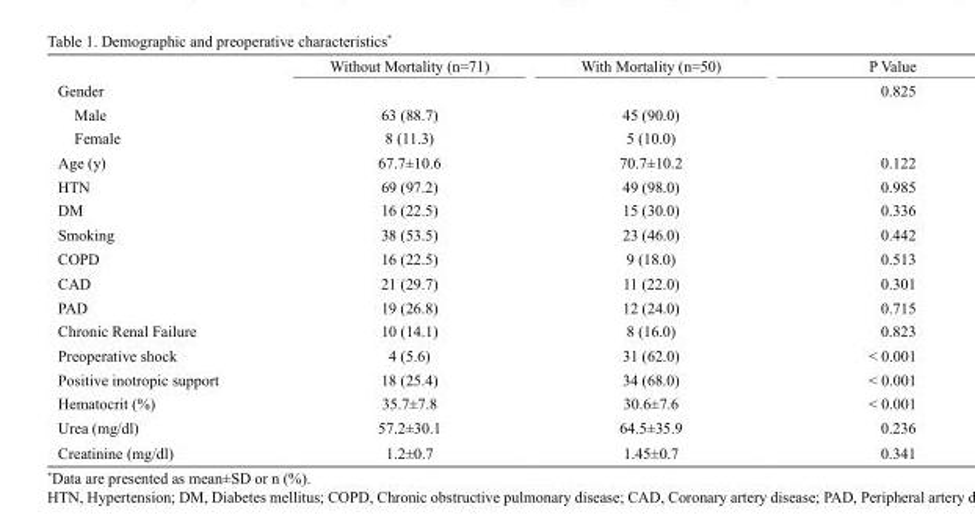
<table><thead><tr><td></td><td>Without Mortality (n=71)</td><td>With Mortality (n=50)</td><td>P Value</td></tr></thead><tbody><tr><td>Gender</td><td></td><td></td><td>0.825</td></tr><tr><td>Male</td><td>63 (88.7)</td><td>45 (90.0)</td><td></td></tr><tr><td>Female</td><td>8 (11.3)</td><td>5 (10.0)</td><td></td></tr><tr><td>Age (y)</td><td>67.7±10.6</td><td>70.7±10.2</td><td>0.122</td></tr><tr><td>HTN</td><td>69 (97.2)</td><td>49 (98.0)</td><td>0.985</td></tr><tr><td>DM</td><td>16 (22.5)</td><td>15 (30.0)</td><td>0.336</td></tr><tr><td>Smoking</td><td>38 (53.5)</td><td>23 (46.0)</td><td>0.442</td></tr><tr><td>COPD</td><td>16 (22.5)</td><td>9 (18.0)</td><td>0.513</td></tr><tr><td>CAD</td><td>21 (29.7)</td><td>11 (22.0)</td><td>0.301</td></tr><tr><td>PAD</td><td>19 (26.8)</td><td>12 (24.0)</td><td>0.715</td></tr><tr><td>Chronic Renal Failure</td><td>10 (14.1)</td><td>8 (16.0)</td><td>0.823</td></tr><tr><td>Preoperative shock</td><td>4 (5.6)</td><td>31 (62.0)</td><td>&lt; 0.001</td></tr><tr><td>Positive inotropic support</td><td>18 (25.4)</td><td>34 (68.0)</td><td>&lt; 0.001</td></tr><tr><td>Hematocrit (%)</td><td>35.7±7.8</td><td>30.6±7.6</td><td>&lt; 0.001</td></tr><tr><td>Urea (mg/dl)</td><td>57.2±30.1</td><td>64.5±35.9</td><td>0.236</td></tr><tr><td>Creatinine (mg/dl)</td><td>1.2±0.7</td><td>1.45±0.7</td><td>0.341</td></tr></tbody></table>